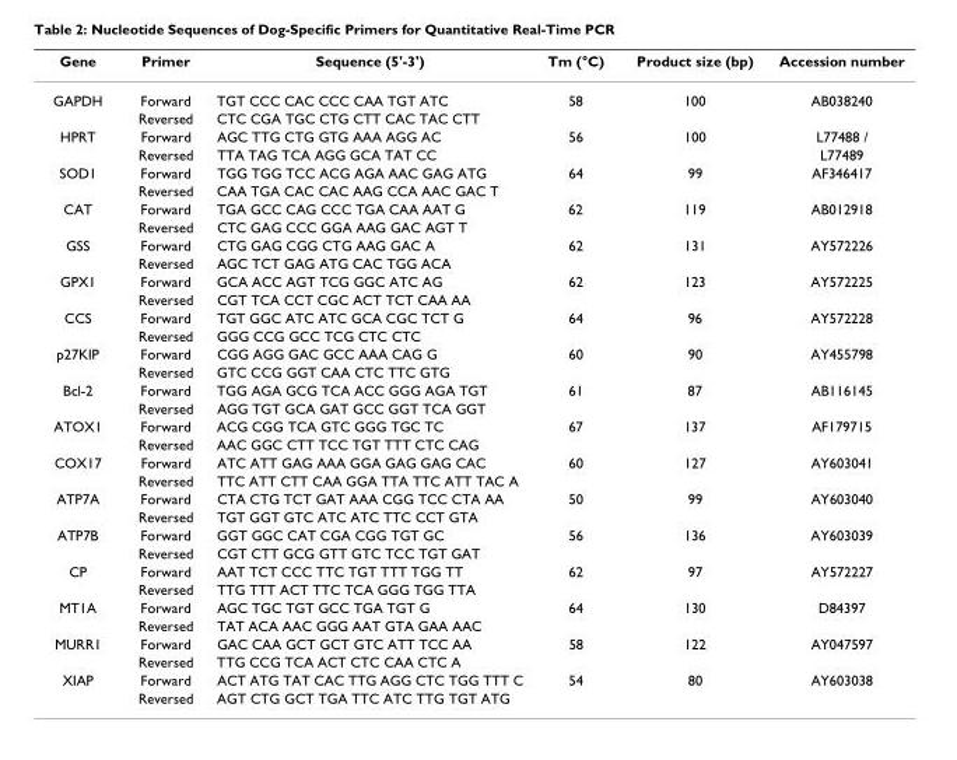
<table><thead><tr><td>Gene</td><td>Primer</td><td>Sequence (5&#x27;-3&#x27;)</td><td>Tm (°C)</td><td>Product size (bp)</td><td>Accession number</td></tr></thead><tbody><tr><td rowspan="2">GAPDH</td><td>Forward</td><td>TGT CCC CAC CCC CAA TGT ATC</td><td>58</td><td>100</td><td>AB038240</td></tr><tr><td>Reversed</td><td>CTC CGA TGC CTG CTT CAC TAC CTT</td><td></td><td></td><td></td></tr><tr><td rowspan="2">HPRT</td><td>Forward</td><td>AGC TTG CTG GTG AAA AGG AC</td><td>56</td><td>100</td><td>L77488 /</td></tr><tr><td>Reversed</td><td>TTA TAG TCA AGG GCA TAT CC</td><td></td><td></td><td>L77489</td></tr><tr><td rowspan="2">SOD1</td><td>Forward</td><td>TGG TGG TCC ACG AGA AAC GAG ATG</td><td>64</td><td>99</td><td>AF346417</td></tr><tr><td>Reversed</td><td>CAA TGA CAC CAC AAG CCA AAC GAC T</td><td></td><td></td><td></td></tr><tr><td rowspan="2">CAT</td><td>Forward</td><td>TGA GCC CAG CCC TGA CAA AAT G</td><td>62</td><td>119</td><td>AB012918</td></tr><tr><td>Reversed</td><td>CTC GAG CCC GGA AAG GAC AGT T</td><td></td><td></td><td></td></tr><tr><td rowspan="2">GSS</td><td>Forward</td><td>CTG GAG CGG CTG AAG GAC A</td><td>62</td><td>131</td><td>AY572226</td></tr><tr><td>Reversed</td><td>AGC TCT GAG ATG CAC TGG ACA</td><td></td><td></td><td></td></tr><tr><td rowspan="2">GPX1</td><td>Forward</td><td>GCA ACC AGT TCG GGC ATC AG</td><td>62</td><td>123</td><td>AY572225</td></tr><tr><td>Reversed</td><td>CGT TCA CCT CGC ACT TCT CAA AA</td><td></td><td></td><td></td></tr><tr><td rowspan="2">CCS</td><td>Forward</td><td>TGT GGC ATC ATC GCA CGC TCT G</td><td>64</td><td>96</td><td>AY572228</td></tr><tr><td>Reversed</td><td>GGG CCG GCC TCG CTC CTC</td><td></td><td></td><td></td></tr><tr><td rowspan="2">p27KIP</td><td>Forward</td><td>CGG AGG GAC GCC AAA CAG G</td><td>60</td><td>90</td><td>AY455798</td></tr><tr><td>Reversed</td><td>GTC CCG GGT CAA CTC TTC GTG</td><td></td><td></td><td></td></tr><tr><td rowspan="2">Bcl-2</td><td>Forward</td><td>TGG AGA GCG TCA ACC GGG AGA TGT</td><td>61</td><td>87</td><td>AB116145</td></tr><tr><td>Reversed</td><td>AGG TGT GCA GAT GCC GGT TCA GGT</td><td></td><td></td><td></td></tr><tr><td rowspan="2">ATOX1</td><td>Forward</td><td>ACG CGG TCA GTC GGG TGC TC</td><td>67</td><td>137</td><td>AF179715</td></tr><tr><td>Reversed</td><td>AAC GGC CTT TCC TGT TTT CTC CAG</td><td></td><td></td><td></td></tr><tr><td rowspan="2">COX17</td><td>Forward</td><td>ATC ATT GAG AAA GGA GAG GAG CAC</td><td>60</td><td>127</td><td>AY603041</td></tr><tr><td>Reversed</td><td>TTC ATT CTT CAA GGA TTA TTC ATT TAC A</td><td></td><td></td><td></td></tr><tr><td rowspan="2">ATP7A</td><td>Forward</td><td>CTA CTG TCT GAT AAA CGG TCC CTA AA</td><td>50</td><td>99</td><td>AY603040</td></tr><tr><td>Reversed</td><td>TGT GGT GTC ATC ATC TTC CCT GTA</td><td></td><td></td><td></td></tr><tr><td rowspan="2">ATP7B</td><td>Forward</td><td>GGT GGC CAT CGA CGG TGT GC</td><td>56</td><td>136</td><td>AY603039</td></tr><tr><td>Reversed</td><td>CGT CTT GCG GTT GTC TCC TGT GAT</td><td></td><td></td><td></td></tr><tr><td rowspan="2">CP</td><td>Forward</td><td>AAT TCT CCC TTC TGT TTT TGG TT</td><td>62</td><td>97</td><td>AY572227</td></tr><tr><td>Reversed</td><td>TTG TTT ACT TTC TCA GGG TGG TTA</td><td></td><td></td><td></td></tr><tr><td rowspan="2">MT1A</td><td>Forward</td><td>AGC TGC TGT GCC TGA TGT G</td><td>64</td><td>130</td><td>D84397</td></tr><tr><td>Reversed</td><td>TAT ACA AAC GGG AAT GTA GAA AAC</td><td></td><td></td><td></td></tr><tr><td rowspan="2">MURR1</td><td>Forward</td><td>GAC CAA GCT GCT GTC ATT TCC AA</td><td>58</td><td>122</td><td>AY047597</td></tr><tr><td>Reversed</td><td>TTG CCG TCA ACT CTC CAA CTC A</td><td></td><td></td><td></td></tr><tr><td rowspan="2">XIAP</td><td>Forward</td><td>ACT ATG TAT CAC TTG AGG CTC TGG TTT C</td><td>54</td><td>80</td><td>AY603038</td></tr><tr><td>Reversed</td><td>AGT CTG GCT TGA TTC ATC TTG TGT ATG</td><td></td><td></td><td></td></tr></tbody></table>